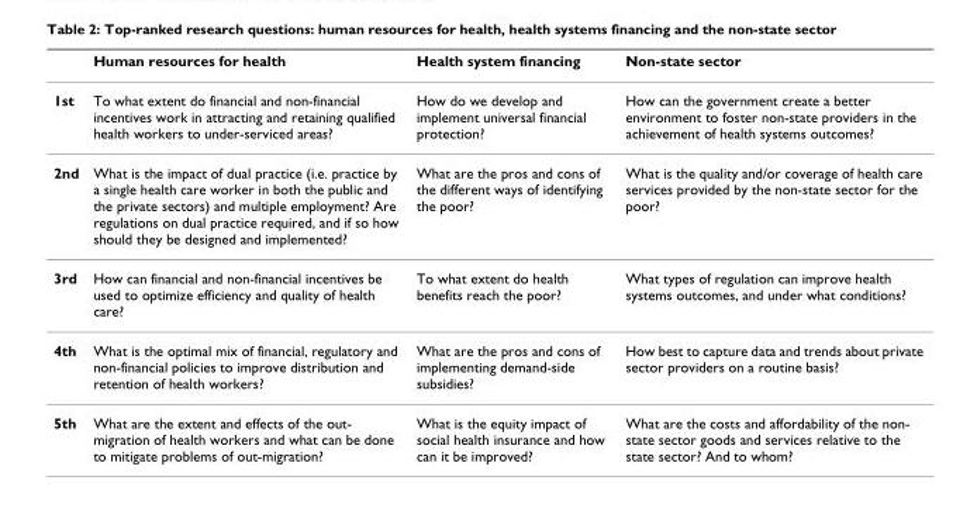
<table><thead><tr><td></td><td>Human resources for health</td><td>Health system financing</td><td>Non-state sector</td></tr></thead><tbody><tr><td>1st</td><td>To what extent do financial and non-financial incentives work in attracting and retaining qualified health workers to under-serviced areas?</td><td>How do we develop and implement universal financial protection?</td><td>How can the government create a better environment to foster non-state providers in the achievement of health systems outcomes?</td></tr><tr><td>2nd</td><td>What is the impact of dual practice (i.e. practice by a single health care worker in both the public and the private sectors) and multiple employment? Are regulations on dual practice required, and if so how should they be designed and implemented?</td><td>What are the pros and cons of the different ways of identifying the poor?</td><td>What is the quality and/or coverage of health care services provided by the non-state sector for the poor?</td></tr><tr><td>3rd</td><td>How can financial and non-financial incentives be used to optimize efficiency and quality of health care?</td><td>To what extent do health benefits reach the poor?</td><td>What types of regulation can improve health systems outcomes, and under what conditions?</td></tr><tr><td>4th</td><td>What is the optimal mix of financial, regulatory and non-financial policies to improve distribution and retention of health workers?</td><td>What are the pros and cons of implementing demand-side subsidies?</td><td>How best to capture data and trends about private sector providers on a routine basis?</td></tr><tr><td>5th</td><td>What are the extent and effects of the out- migration of health workers and what can be done to mitigate problems of out-migration?</td><td>What is the equity impact of social health insurance and how can it be improved?</td><td>What are the costs and affordability of the non- state sector goods and services relative to the state sector? And to whom?</td></tr></tbody></table>